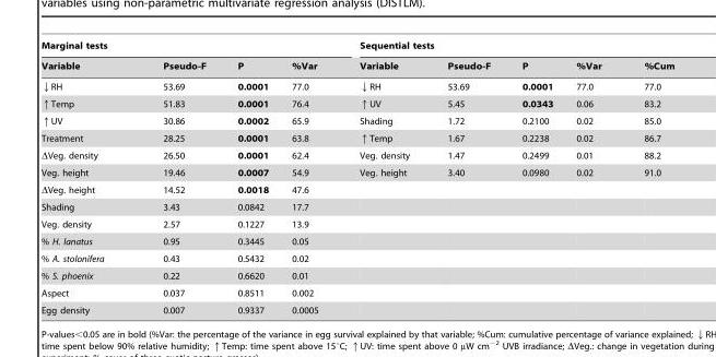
<table><thead><tr><td colspan="4">Marginal tests</td><td colspan="5">Sequential tests</td></tr><tr><td>Variable</td><td>Pseudo-F</td><td>P</td><td>%Var</td><td>Variable</td><td>Pseudo-F</td><td>P</td><td>%Var</td><td>%Cum</td></tr></thead><tbody><tr><td>↓RH</td><td>53.69</td><td>0.0001</td><td>77.0</td><td>↓RH</td><td>53.69</td><td>0.0001</td><td>77.0</td><td>77.0</td></tr><tr><td>↑Temp</td><td>51.83</td><td>0.0001</td><td>76.4</td><td>↑UV</td><td>5.45</td><td>0.0343</td><td>0.06</td><td>83.2</td></tr><tr><td>↑UV</td><td>30.86</td><td>0.0002</td><td>65.9</td><td>Shading</td><td>1.72</td><td>0.2100</td><td>0.02</td><td>85.0</td></tr><tr><td>Treatment</td><td>28.25</td><td>0.0001</td><td>63.8</td><td>↑Temp</td><td>1.67</td><td>0.2238</td><td>0.02</td><td>86.7</td></tr><tr><td>ΔVeg. density</td><td>26.50</td><td>0.0001</td><td>62.4</td><td>Veg. density</td><td>1.47</td><td>0.2499</td><td>0.01</td><td>88.2</td></tr><tr><td>Veg. height</td><td>19.46</td><td>0.0007</td><td>54.9</td><td>Veg. height</td><td>3.40</td><td>0.0980</td><td>0.02</td><td>91.0</td></tr><tr><td>ΔVeg. height</td><td>14.52</td><td>0.0018</td><td>47.6</td><td></td><td></td><td></td><td></td><td></td></tr><tr><td>Shading</td><td>3.43</td><td>0.0842</td><td>17.7</td><td></td><td></td><td></td><td></td><td></td></tr><tr><td>Veg. density</td><td>2.57</td><td>0.1227</td><td>13.9</td><td></td><td></td><td></td><td></td><td></td></tr><tr><td>% H. lanatus</td><td>0.95</td><td>0.3445</td><td>0.05</td><td></td><td></td><td></td><td></td><td></td></tr><tr><td>% A. stolonifera</td><td>0.43</td><td>0.5432</td><td>0.02</td><td></td><td></td><td></td><td></td><td></td></tr><tr><td>% S. phoenix</td><td>0.22</td><td>0.6620</td><td>0.01</td><td></td><td></td><td></td><td></td><td></td></tr><tr><td>Aspect</td><td>0.037</td><td>0.8511</td><td>0.002</td><td></td><td></td><td></td><td></td><td></td></tr><tr><td>Egg density</td><td>0.007</td><td>0.9337</td><td>0.0005</td><td></td><td></td><td></td><td></td><td></td></tr></tbody></table>